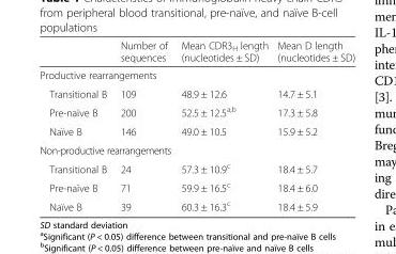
<table><thead><tr><td></td><td>Number of sequences</td><td>Mean CDR3<sub>H</sub> length (nucleotides ± SD)</td><td>Mean D length (nucleotides ± SD)</td></tr></thead><tbody><tr><td colspan="4">Productive rearrangements</td></tr><tr><td>Transitional B</td><td>109</td><td>48.9 ± 12.6</td><td>14.7 ± 5.1</td></tr><tr><td>Pre-naïve B</td><td>200</td><td>52.5 ± 12.5<sup>a,b</sup></td><td>17.3 ± 5.8</td></tr><tr><td>Naïve B</td><td>146</td><td>49.0 ± 10.5</td><td>15.9 ± 5.2</td></tr><tr><td colspan="4">Non-productive rearrangements</td></tr><tr><td>Transitional B</td><td>24</td><td>57.3 ± 10.9<sup>c</sup></td><td>18.4 ± 5.7</td></tr><tr><td>Pre-naïve B</td><td>71</td><td>59.9 ± 16.5<sup>c</sup></td><td>18.4 ± 6.0</td></tr><tr><td>Naïve B</td><td>39</td><td>60.3 ± 16.3<sup>c</sup></td><td>18.4 ± 5.9</td></tr></tbody></table>